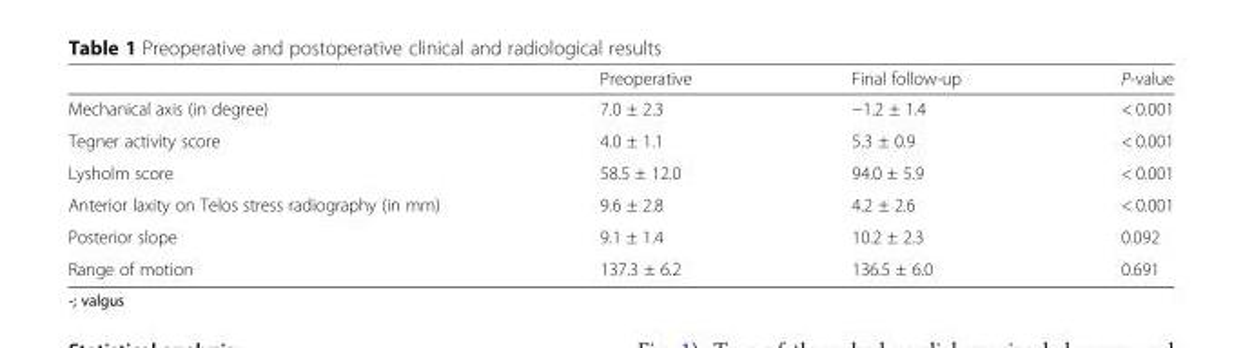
<table><thead><tr><td></td><td>Preoperative</td><td>Final follow-up</td><td>P-value</td></tr></thead><tbody><tr><td>Mechanical axis (in degree)</td><td>7.0 ± 2.3</td><td>−1.2 ± 1.4</td><td>&lt; 0.001</td></tr><tr><td>Tegner activity score</td><td>4.0 ± 1.1</td><td>5.3 ± 0.9</td><td>&lt; 0.001</td></tr><tr><td>Lysholm score</td><td>58.5 ± 12.0</td><td>94.0 ± 5.9</td><td>&lt; 0.001</td></tr><tr><td>Anterior laxity on Telos stress radiography (in mm)</td><td>9.6 ± 2.8</td><td>4.2 ± 2.6</td><td>&lt; 0.001</td></tr><tr><td>Posterior slope</td><td>9.1 ± 1.4</td><td>10.2 ± 2.3</td><td>0.092</td></tr><tr><td>Range of motion</td><td>137.3 ± 6.2</td><td>136.5 ± 6.0</td><td>0.691</td></tr></tbody></table>